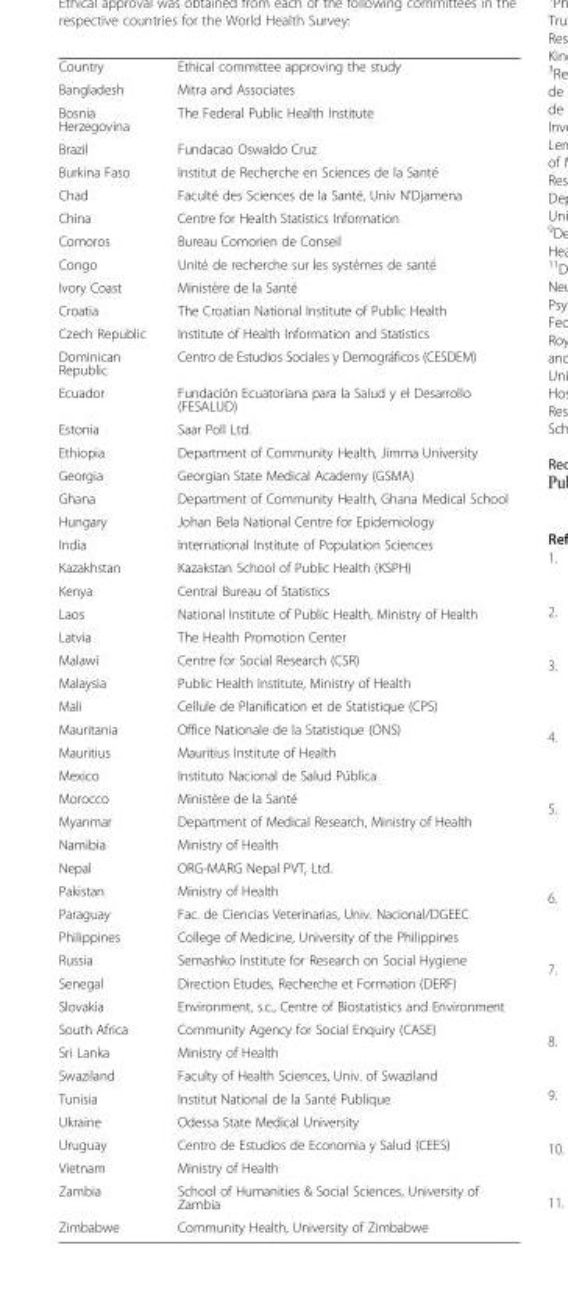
<table><tbody><tr><td>Country</td><td>Ethical committee approving the study</td></tr><tr><td>Bangladesh</td><td>Mitra and Associates</td></tr><tr><td>Bosnia Herzegovina</td><td>The Federal Public Health Institute</td></tr><tr><td>Brazil</td><td>Fundacao Oswaldo Cruz</td></tr><tr><td>Burkina Faso</td><td>Institut de Recherche en Sciences de la Santé</td></tr><tr><td>Chad</td><td>Faculté des Sciences de la Santé, Univ N&#x27;Djamena</td></tr><tr><td>China</td><td>Centre for Health Statistics Information</td></tr><tr><td>Comoros</td><td>Bureau Comorien de Conseil</td></tr><tr><td>Congo</td><td>Unité de recherche sur les systèmes de santé</td></tr><tr><td>Ivory Coast</td><td>Ministère de la Santé</td></tr><tr><td>Croatia</td><td>The Croatian National Institute of Public Health</td></tr><tr><td>Czech Republic</td><td>Institute of Health Information and Statistics</td></tr><tr><td>Dominican Republic</td><td>Centro de Estudios Sociales y Demográficos (CESDEM)</td></tr><tr><td>Ecuador</td><td>Fundación Ecuatoriana para la Salud y el Desarrollo (FESALUD)</td></tr><tr><td>Estonia</td><td>Saar Poll Ltd.</td></tr><tr><td>Ethiopia</td><td>Department of Community Health, Jimma University</td></tr><tr><td>Georgia</td><td>Georgian State Medical Academy (GSMA)</td></tr><tr><td>Ghana</td><td>Department of Community Health, Ghana Medical School</td></tr><tr><td>Hungary</td><td>Johan Bela National Centre for Epidemiology</td></tr><tr><td>India</td><td>International Institute of Population Sciences</td></tr><tr><td>Kazakhstan</td><td>Kazakstan School of Public Health (KSPH)</td></tr><tr><td>Kenya</td><td>Central Bureau of Statistics</td></tr><tr><td>Laos</td><td>National Institute of Public Health, Ministry of Health</td></tr><tr><td>Latvia</td><td>The Health Promotion Center</td></tr><tr><td>Malawi</td><td>Centre for Social Research (CSR)</td></tr><tr><td>Malaysia</td><td>Public Health Institute, Ministry of Health</td></tr><tr><td>Mali</td><td>Cellule de Planification et de Statistique (CPS)</td></tr><tr><td>Mauritania</td><td>Office Nationale de la Statistique (ONS)</td></tr><tr><td>Mauritius</td><td>Mauritius Institute of Health</td></tr><tr><td>Mexico</td><td>Instituto Nacional de Salud Pública</td></tr><tr><td>Morocco</td><td>Ministère de la Santé</td></tr><tr><td>Myanmar</td><td>Department of Medical Research, Ministry of Health</td></tr><tr><td>Namibia</td><td>Ministry of Health</td></tr><tr><td>Nepal</td><td>ORG-MARG Nepal PVT, Ltd.</td></tr><tr><td>Pakistan</td><td>Ministry of Health</td></tr><tr><td>Paraguay</td><td>Fac. de Ciencias Veterinarias, Univ. Nacional/DGEEC</td></tr><tr><td>Philippines</td><td>College of Medicine, University of the Philippines</td></tr><tr><td>Russia</td><td>Semashko Institute for Research on Social Hygiene</td></tr><tr><td>Senegal</td><td>Direction Etudes, Recherche et Formation (DERF)</td></tr><tr><td>Slovakia</td><td>Environment, s.c., Centre of Biostatistics and Environment</td></tr><tr><td>South Africa</td><td>Community Agency for Social Enquiry (CASE)</td></tr><tr><td>Sri Lanka</td><td>Ministry of Health</td></tr><tr><td>Swaziland</td><td>Faculty of Health Sciences, Univ. of Swaziland</td></tr><tr><td>Tunisia</td><td>Institut National de la Santé Publique</td></tr><tr><td>Ukraine</td><td>Odessa State Medical University</td></tr><tr><td>Uruguay</td><td>Centro de Estudios de Economia y Salud (CEES)</td></tr><tr><td>Vietnam</td><td>Ministry of Health</td></tr><tr><td>Zambia</td><td>School of Humanities &amp; Social Sciences, University of Zambia</td></tr><tr><td>Zimbabwe</td><td>Community Health, University of Zimbabwe</td></tr></tbody></table>